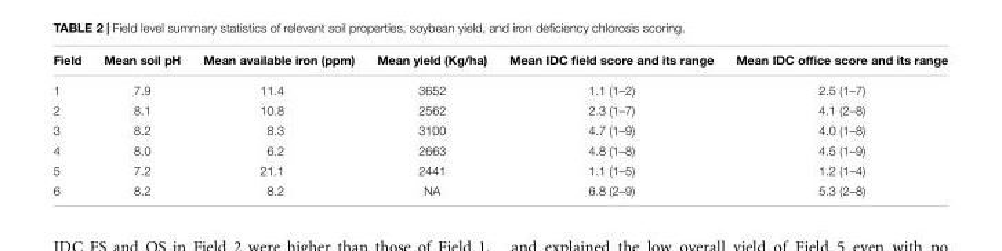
<table><thead><tr><td>Field</td><td>Mean soil pH</td><td>Mean available iron (ppm)</td><td>Mean yield (Kg/ha)</td><td>Mean IDC field score and its range</td><td>Mean IDC office score and its range</td></tr></thead><tbody><tr><td>1</td><td>7.9</td><td>11.4</td><td>3652</td><td>1.1 (1–2)</td><td>2.5 (1–7)</td></tr><tr><td>2</td><td>8.1</td><td>10.8</td><td>2562</td><td>2.3 (1–7)</td><td>4.1 (2–8)</td></tr><tr><td>3</td><td>8.2</td><td>8.3</td><td>3100</td><td>4.7 (1–9)</td><td>4.0 (1–8)</td></tr><tr><td>4</td><td>8.0</td><td>6.2</td><td>2663</td><td>4.8 (1–8)</td><td>4.5 (1–9)</td></tr><tr><td>5</td><td>7.2</td><td>21.1</td><td>2441</td><td>1.1 (1–5)</td><td>1.2 (1–4)</td></tr><tr><td>6</td><td>8.2</td><td>8.2</td><td>NA</td><td>6.8 (2–9)</td><td>5.3 (2–8)</td></tr></tbody></table>